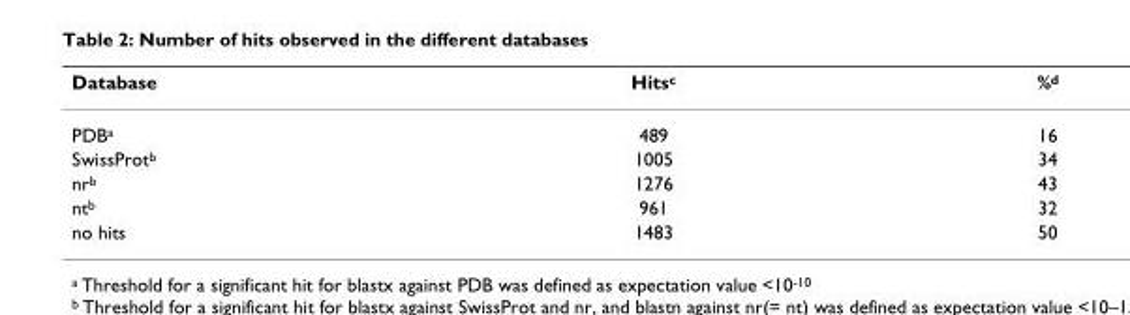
<table><thead><tr><td>Database</td><td>Hits<sup>c</sup></td><td>%<sup>d</sup></td></tr></thead><tbody><tr><td>PDB<sup>a</sup></td><td>489</td><td>16</td></tr><tr><td>SwissProt<sup>b</sup></td><td>1005</td><td>34</td></tr><tr><td>nr<sup>b</sup></td><td>1276</td><td>43</td></tr><tr><td>nt<sup>b</sup></td><td>961</td><td>32</td></tr><tr><td>no hits</td><td>1483</td><td>50</td></tr></tbody></table>